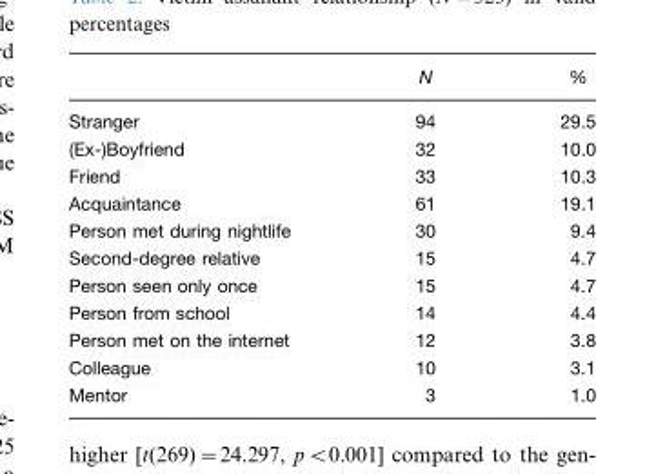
<table><thead><tr><td></td><td>N</td><td>%</td></tr></thead><tbody><tr><td>Stranger</td><td>94</td><td>29.5</td></tr><tr><td>(Ex-)Boyfriend</td><td>32</td><td>10.0</td></tr><tr><td>Friend</td><td>33</td><td>10.3</td></tr><tr><td>Acquaintance</td><td>61</td><td>19.1</td></tr><tr><td>Person met during nightlife</td><td>30</td><td>9.4</td></tr><tr><td>Second-degree relative</td><td>15</td><td>4.7</td></tr><tr><td>Person seen only once</td><td>15</td><td>4.7</td></tr><tr><td>Person from school</td><td>14</td><td>4.4</td></tr><tr><td>Person met on the internet</td><td>12</td><td>3.8</td></tr><tr><td>Colleague</td><td>10</td><td>3.1</td></tr><tr><td>Mentor</td><td>3</td><td>1.0</td></tr></tbody></table>